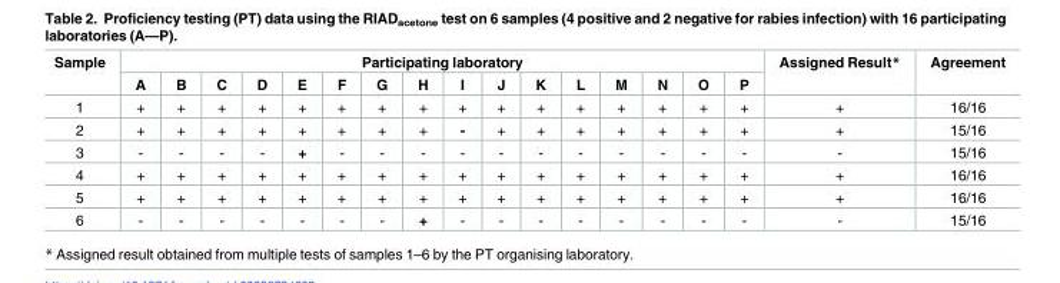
<table><thead><tr><td rowspan="2">Sample</td><td colspan="16">Participating laboratory</td><td rowspan="2">Assigned Result*</td><td rowspan="2">Agreement</td></tr><tr><td>A</td><td>B</td><td>C</td><td>D</td><td>E</td><td>F</td><td>G</td><td>H</td><td>I</td><td>J</td><td>K</td><td>L</td><td>M</td><td>N</td><td>O</td><td>P</td></tr></thead><tbody><tr><td>1</td><td>+</td><td>+</td><td>+</td><td>+</td><td>+</td><td>+</td><td>+</td><td>+</td><td>+</td><td>+</td><td>+</td><td>+</td><td>+</td><td>+</td><td>+</td><td>+</td><td>+</td><td>16/16</td></tr><tr><td>2</td><td>+</td><td>+</td><td>+</td><td>+</td><td>+</td><td>+</td><td>+</td><td>+</td><td>-</td><td>+</td><td>+</td><td>+</td><td>+</td><td>+</td><td>+</td><td>+</td><td>+</td><td>15/16</td></tr><tr><td>3</td><td>-</td><td>-</td><td>-</td><td>-</td><td>+</td><td>-</td><td>-</td><td>-</td><td>-</td><td>-</td><td>-</td><td>-</td><td>-</td><td>-</td><td>-</td><td>-</td><td>-</td><td>15/16</td></tr><tr><td>4</td><td>+</td><td>+</td><td>+</td><td>+</td><td>+</td><td>+</td><td>+</td><td>+</td><td>+</td><td>+</td><td>+</td><td>+</td><td>+</td><td>+</td><td>+</td><td>+</td><td>+</td><td>16/16</td></tr><tr><td>5</td><td>+</td><td>+</td><td>+</td><td>+</td><td>+</td><td>+</td><td>+</td><td>+</td><td>+</td><td>+</td><td>+</td><td>+</td><td>+</td><td>+</td><td>+</td><td>+</td><td>+</td><td>16/16</td></tr><tr><td>6</td><td>-</td><td>-</td><td>-</td><td>-</td><td>-</td><td>-</td><td>-</td><td>+</td><td>-</td><td>-</td><td>-</td><td>-</td><td>-</td><td>-</td><td>-</td><td>-</td><td>-</td><td>15/16</td></tr></tbody></table>